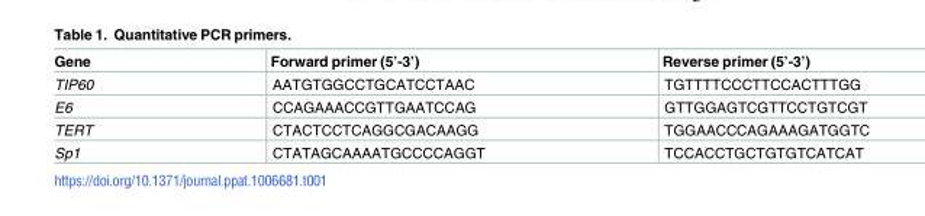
<table><thead><tr><td>Gene</td><td>Forward primer (5’-3’)</td><td>Reverse primer (5’-3’)</td></tr></thead><tbody><tr><td>TIP60</td><td>AATGTGGCCTGCATCCTAAC</td><td>TGTTTTCCCTTCCACTTTGG</td></tr><tr><td>E6</td><td>CCAGAAACCGTTGAATCCAG</td><td>GTTGGAGTCGTTCCTGTCGT</td></tr><tr><td>TERT</td><td>CTACTCCTCAGGCGACAAGG</td><td>TGGAACCCAGAAAGATGGTC</td></tr><tr><td>Sp1</td><td>CTATAGCAAAATGCCCCAGGT</td><td>TCCACCTGCTGTGTCATCAT</td></tr></tbody></table>